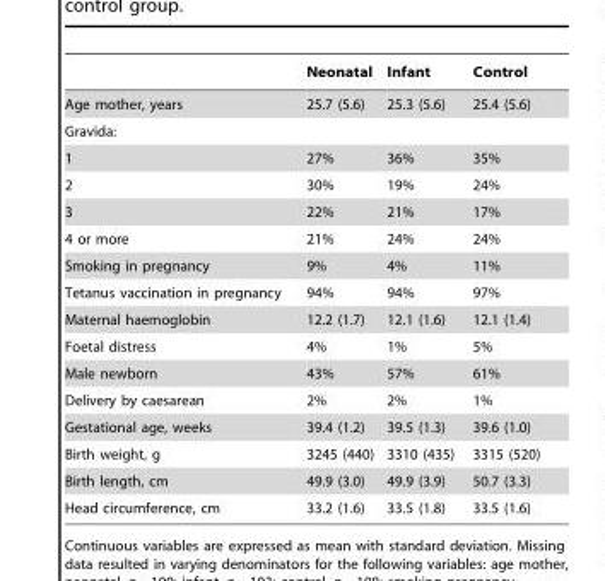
<table><thead><tr><td></td><td>Neonatal</td><td>Infant</td><td>Control</td></tr></thead><tbody><tr><td>Age mother, years</td><td>25.7 (5.6)</td><td>25.3 (5.6)</td><td>25.4 (5.6)</td></tr><tr><td colspan="4">Gravida:</td></tr><tr><td>1</td><td>27%</td><td>36%</td><td>35%</td></tr><tr><td>2</td><td>30%</td><td>19%</td><td>24%</td></tr><tr><td>3</td><td>22%</td><td>21%</td><td>17%</td></tr><tr><td>4 or more</td><td>21%</td><td>24%</td><td>24%</td></tr><tr><td>Smoking in pregnancy</td><td>9%</td><td>4%</td><td>11%</td></tr><tr><td>Tetanus vaccination in pregnancy</td><td>94%</td><td>94%</td><td>97%</td></tr><tr><td>Maternal haemoglobin</td><td>12.2 (1.7)</td><td>12.1 (1.6)</td><td>12.1 (1.4)</td></tr><tr><td>Foetal distress</td><td>4%</td><td>1%</td><td>5%</td></tr><tr><td>Male newborn</td><td>43%</td><td>57%</td><td>61%</td></tr><tr><td>Delivery by caesarean</td><td>2%</td><td>2%</td><td>1%</td></tr><tr><td>Gestational age, weeks</td><td>39.4 (1.2)</td><td>39.5 (1.3)</td><td>39.6 (1.0)</td></tr><tr><td>Birth weight, g</td><td>3245 (440)</td><td>3310 (435)</td><td>3315 (520)</td></tr><tr><td>Birth length, cm</td><td>49.9 (3.0)</td><td>49.9 (3.9)</td><td>50.7 (3.3)</td></tr><tr><td>Head circumference, cm</td><td>33.2 (1.6)</td><td>33.5 (1.8)</td><td>33.5 (1.6)</td></tr></tbody></table>